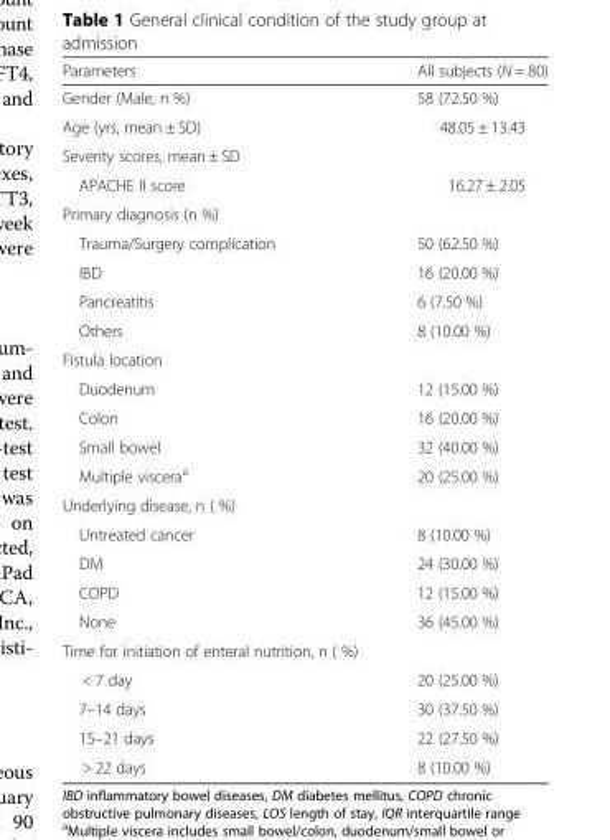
<table><thead><tr><td>Parameters</td><td>All subjects (N = 80)</td></tr></thead><tbody><tr><td>Gender (Male, n %)</td><td>58 (72.50 %)</td></tr><tr><td>Age (yrs, mean ± SD)</td><td>48.05 ± 13.43</td></tr><tr><td colspan="2">Severity scores, mean ± SD</td></tr><tr><td>APACHE II score</td><td>16.27 ± 2.05</td></tr><tr><td colspan="2">Primary diagnosis (n %)</td></tr><tr><td>Trauma/Surgery complication</td><td>50 (62.50 %)</td></tr><tr><td>IBD</td><td>16 (20.00 %)</td></tr><tr><td>Pancreatitis</td><td>6 (7.50 %)</td></tr><tr><td>Others</td><td>8 (10.00 %)</td></tr><tr><td colspan="2">Fistula location</td></tr><tr><td>Duodenum</td><td>12 (15.00 %)</td></tr><tr><td>Colon</td><td>16 (20.00 %)</td></tr><tr><td>Small bowel</td><td>32 (40.00 %)</td></tr><tr><td>Multiple viscera<sup>a</sup></td><td>20 (25.00 %)</td></tr><tr><td colspan="2">Underlying disease, n ( %)</td></tr><tr><td>Untreated cancer</td><td>8 (10.00 %)</td></tr><tr><td>DM</td><td>24 (30.00 %)</td></tr><tr><td>COPD</td><td>12 (15.00 %)</td></tr><tr><td>None</td><td>36 (45.00 %)</td></tr><tr><td colspan="2">Time for initiation of enteral nutrition, n ( %)</td></tr><tr><td>&lt; 7 day</td><td>20 (25.00 %)</td></tr><tr><td>7–14 days</td><td>30 (37.50 %)</td></tr><tr><td>15–21 days</td><td>22 (27.50 %)</td></tr><tr><td>&gt; 22 days</td><td>8 (10.00 %)</td></tr></tbody></table>